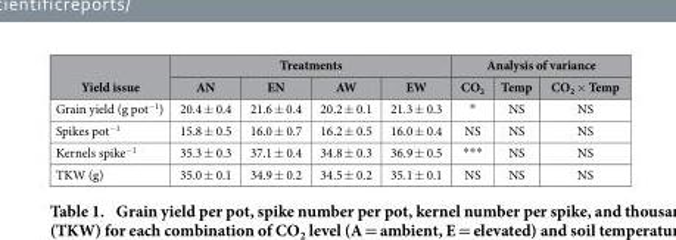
<table><thead><tr><td rowspan="2">Yield issue</td><td colspan="4">Treatments</td><td colspan="3">Analysis of variance</td></tr><tr><td>AN</td><td>EN</td><td>AW</td><td>EW</td><td>CO<sub>2</sub></td><td>Temp</td><td>CO<sub>2</sub> × Temp</td></tr></thead><tbody><tr><td>Grain yield (g pot<sup>−1</sup>)</td><td>20.4 ± 0.4</td><td>21.6 ± 0.4</td><td>20.2 ± 0.1</td><td>21.3 ± 0.3</td><td>*</td><td>NS</td><td>NS</td></tr><tr><td>Spikes pot<sup>−1</sup></td><td>15.8 ± 0.5</td><td>16.0 ± 0.7</td><td>16.2 ± 0.5</td><td>16.0 ± 0.4</td><td>NS</td><td>NS</td><td>NS</td></tr><tr><td>Kernels spike<sup>−1</sup></td><td>35.3 ± 0.3</td><td>37.1 ± 0.4</td><td>34.8 ± 0.3</td><td>36.9 ± 0.5</td><td>***</td><td>NS</td><td>NS</td></tr><tr><td>TKW (g)</td><td>35.0 ± 0.1</td><td>34.9 ± 0.2</td><td>34.5 ± 0.2</td><td>35.1 ± 0.1</td><td>NS</td><td>NS</td><td>NS</td></tr></tbody></table>